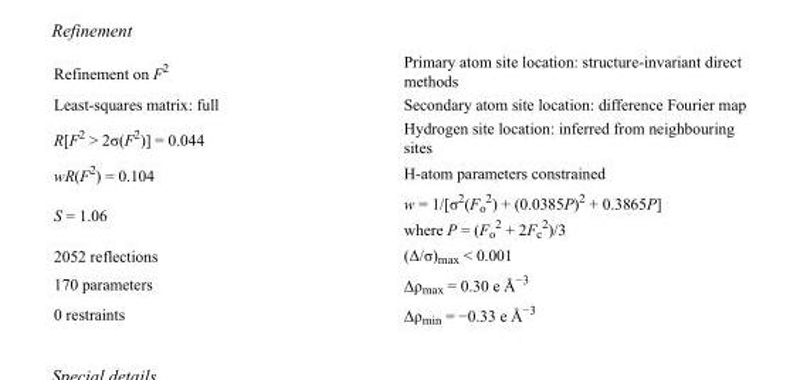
<table><tbody><tr><td>Refinement on F<sup>2</sup></td><td>Primary atom site location: structure-invariant direct methods</td></tr><tr><td>Least-squares matrix: full</td><td>Secondary atom site location: difference Fourier map</td></tr><tr><td>R[F<sup>2</sup> &gt; 2σ(F<sup>2</sup>)] = 0.044</td><td>Hydrogen site location: inferred from neighbouring sites</td></tr><tr><td>wR(F<sup>2</sup>) = 0.104</td><td>H-atom parameters constrained</td></tr><tr><td>S = 1.06</td><td>w = 1/[σ<sup>2</sup>(F<sub>o</sub> <sup>2</sup>) + (0.0385P)<sup>2</sup> + 0.3865P] where P = (F<sub>o</sub> <sup>2</sup> + 2F<sub>c</sub> <sup>2</sup>)/3</td></tr><tr><td>2052 reflections</td><td>(Δ/σ)<sub>max</sub> &lt; 0.001</td></tr><tr><td>170 parameters</td><td>Δρ<sub>max</sub> = 0.30 e Å<sup>−3</sup></td></tr><tr><td>0 restraints</td><td>Δρ<sub>min</sub> = −0.33 e Å<sup>−3</sup></td></tr></tbody></table>